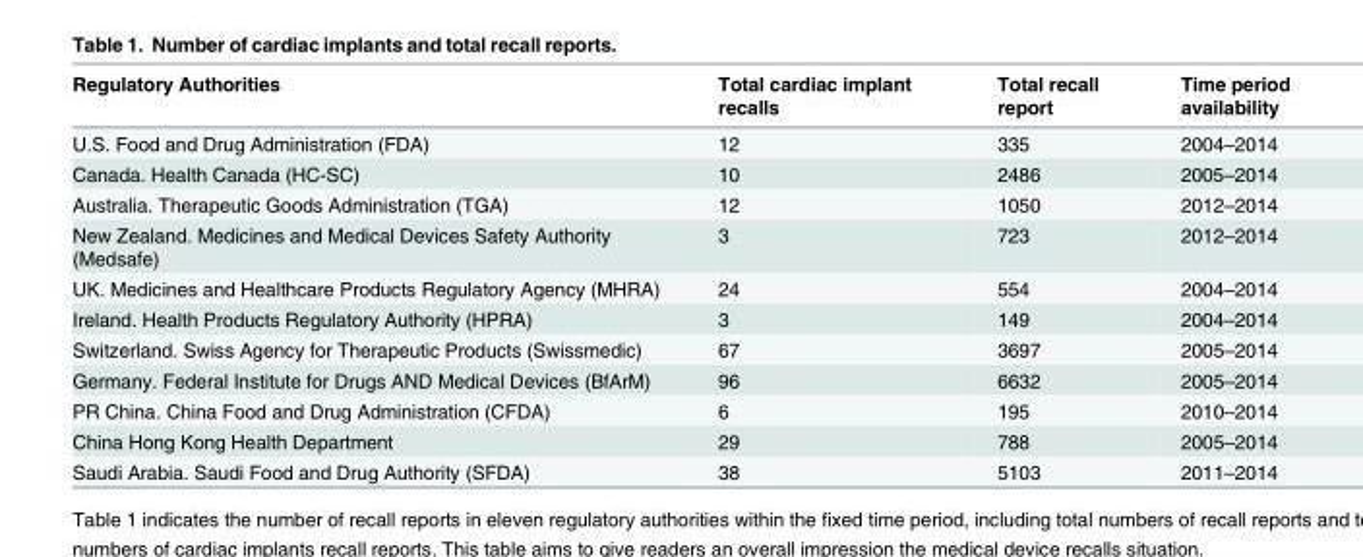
<table><thead><tr><td>Regulatory Authorities</td><td>Total cardiac implant recalls</td><td>Total recall report</td><td>Time period availability</td></tr></thead><tbody><tr><td>U.S. Food and Drug Administration (FDA)</td><td>12</td><td>335</td><td>2004–2014</td></tr><tr><td>Canada. Health Canada (HC-SC)</td><td>10</td><td>2486</td><td>2005–2014</td></tr><tr><td>Australia. Therapeutic Goods Administration (TGA)</td><td>12</td><td>1050</td><td>2012–2014</td></tr><tr><td>New Zealand. Medicines and Medical Devices Safety Authority (Medsafe)</td><td>3</td><td>723</td><td>2012–2014</td></tr><tr><td>UK. Medicines and Healthcare Products Regulatory Agency (MHRA)</td><td>24</td><td>554</td><td>2004–2014</td></tr><tr><td>Ireland. Health Products Regulatory Authority (HPRA)</td><td>3</td><td>149</td><td>2004–2014</td></tr><tr><td>Switzerland. Swiss Agency for Therapeutic Products (Swissmedic)</td><td>67</td><td>3697</td><td>2005–2014</td></tr><tr><td>Germany. Federal Institute for Drugs AND Medical Devices (BfArM)</td><td>96</td><td>6632</td><td>2005–2014</td></tr><tr><td>PR China. China Food and Drug Administration (CFDA)</td><td>6</td><td>195</td><td>2010–2014</td></tr><tr><td>China Hong Kong Health Department</td><td>29</td><td>788</td><td>2005–2014</td></tr><tr><td>Saudi Arabia. Saudi Food and Drug Authority (SFDA)</td><td>38</td><td>5103</td><td>2011–2014</td></tr></tbody></table>